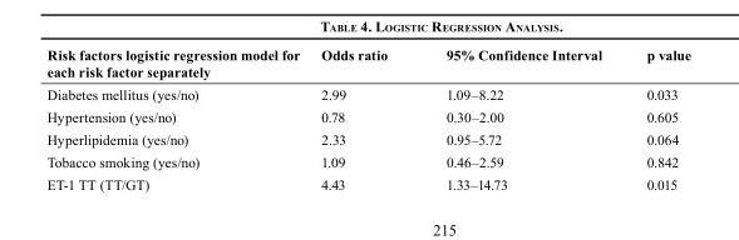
<table><thead><tr><td>Risk factors logistic regression model for each risk factor separately</td><td>Odds ratio</td><td>95% Confidence Interval</td><td>p value</td></tr></thead><tbody><tr><td>Diabetes mellitus (yes/no)</td><td>2.99</td><td>1.09–8.22</td><td>0.033</td></tr><tr><td>Hypertension (yes/no)</td><td>0.78</td><td>0.30–2.00</td><td>0.605</td></tr><tr><td>Hyperlipidemia (yes/no)</td><td>2.33</td><td>0.95–5.72</td><td>0.064</td></tr><tr><td>Tobacco smoking (yes/no)</td><td>1.09</td><td>0.46–2.59</td><td>0.842</td></tr><tr><td>ET-1 TT (TT/GT)</td><td>4.43</td><td>1.33–14.73</td><td>0.015</td></tr></tbody></table>